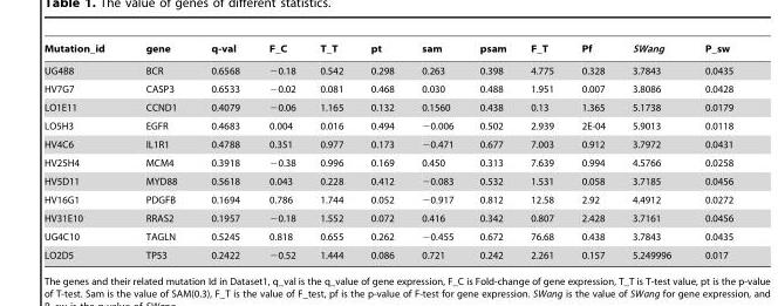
<table><thead><tr><td>Mutation_id</td><td>gene</td><td>q-val</td><td>F_C</td><td>T_T</td><td>pt</td><td>sam</td><td>psam</td><td>F_T</td><td>Pf</td><td>SWang</td><td>P_sw</td></tr></thead><tbody><tr><td>UG4B8</td><td>BCR</td><td>0.6568</td><td>−0.18</td><td>0.542</td><td>0.298</td><td>0.263</td><td>0.398</td><td>4.775</td><td>0.328</td><td>3.7843</td><td>0.0435</td></tr><tr><td>HV7G7</td><td>CASP3</td><td>0.6533</td><td>−0.02</td><td>0.081</td><td>0.468</td><td>0.030</td><td>0.488</td><td>1.951</td><td>0.007</td><td>3.8086</td><td>0.0428</td></tr><tr><td>LO1E11</td><td>CCND1</td><td>0.4079</td><td>−0.06</td><td>1.165</td><td>0.132</td><td>0.1560</td><td>0.438</td><td>0.13</td><td>1.365</td><td>5.1738</td><td>0.0179</td></tr><tr><td>LO5H3</td><td>EGFR</td><td>0.4683</td><td>0.004</td><td>0.016</td><td>0.494</td><td>−0.006</td><td>0.502</td><td>2.939</td><td>2E-04</td><td>5.9013</td><td>0.0118</td></tr><tr><td>HV4C6</td><td>IL1R1</td><td>0.4788</td><td>0.351</td><td>0.977</td><td>0.173</td><td>−0.471</td><td>0.677</td><td>7.003</td><td>0.912</td><td>3.7972</td><td>0.0431</td></tr><tr><td>HV25H4</td><td>MCM4</td><td>0.3918</td><td>−0.38</td><td>0.996</td><td>0.169</td><td>0.450</td><td>0.313</td><td>7.639</td><td>0.994</td><td>4.5766</td><td>0.0258</td></tr><tr><td>HV5D11</td><td>MYD88</td><td>0.5618</td><td>0.043</td><td>0.228</td><td>0.412</td><td>−0.083</td><td>0.532</td><td>1.531</td><td>0.058</td><td>3.7185</td><td>0.0456</td></tr><tr><td>HV16G1</td><td>PDGFB</td><td>0.1694</td><td>0.786</td><td>1.744</td><td>0.052</td><td>−0.917</td><td>0.812</td><td>12.58</td><td>2.92</td><td>4.4912</td><td>0.0272</td></tr><tr><td>HV31E10</td><td>RRAS2</td><td>0.1957</td><td>−0.18</td><td>1.552</td><td>0.072</td><td>0.416</td><td>0.342</td><td>0.807</td><td>2.428</td><td>3.7161</td><td>0.0456</td></tr><tr><td>UG4C10</td><td>TAGLN</td><td>0.5245</td><td>0.818</td><td>0.655</td><td>0.262</td><td>−0.455</td><td>0.672</td><td>76.68</td><td>0.438</td><td>3.7843</td><td>0.0435</td></tr><tr><td>LO2D5</td><td>TP53</td><td>0.2422</td><td>−0.52</td><td>1.444</td><td>0.086</td><td>0.721</td><td>0.242</td><td>2.261</td><td>0.157</td><td>5.249996</td><td>0.017</td></tr></tbody></table>